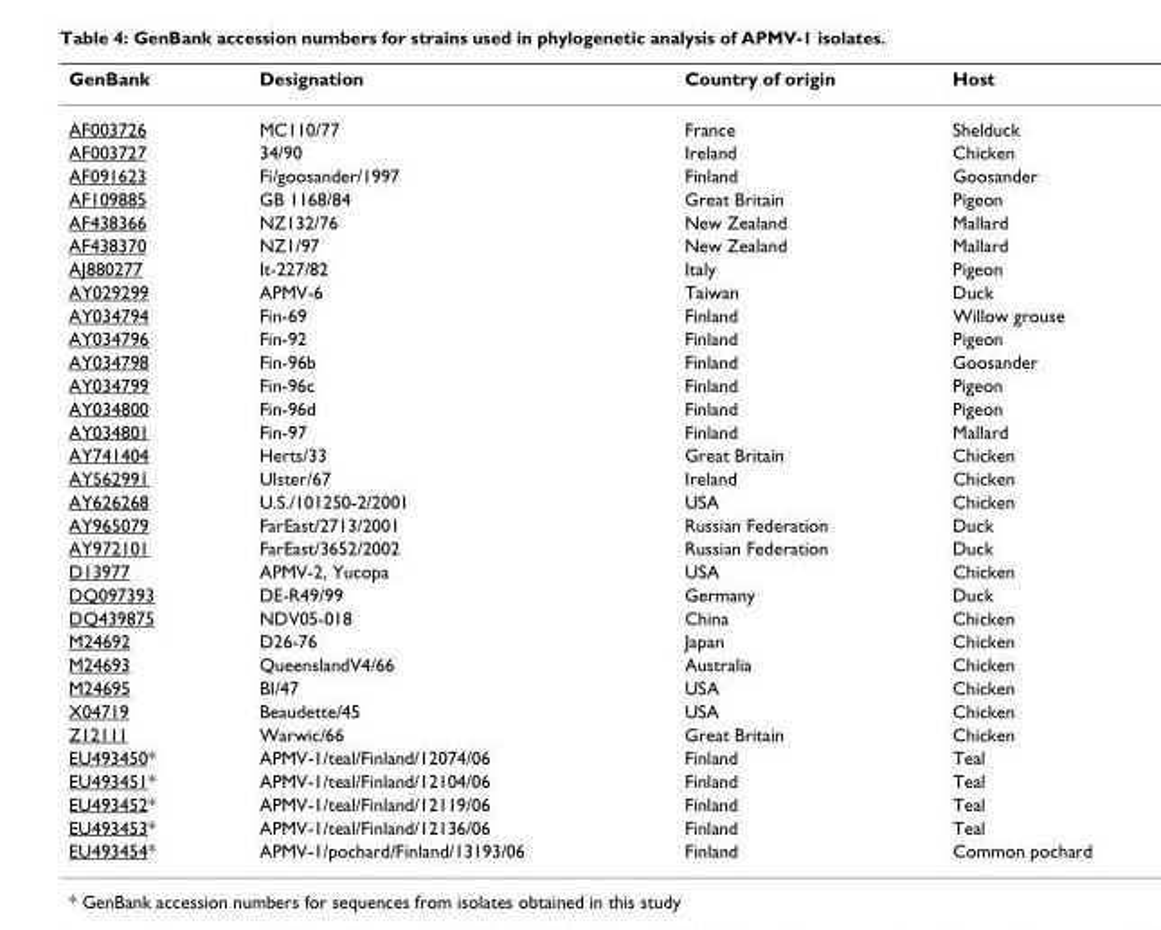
<table><thead><tr><td>GenBank</td><td>Designation</td><td>Country of origin</td><td>Host</td></tr></thead><tbody><tr><td>AF003726</td><td>MC110/77</td><td>France</td><td>Shelduck</td></tr><tr><td>AF003727</td><td>34/90</td><td>Ireland</td><td>Chicken</td></tr><tr><td>AF091623</td><td>Fi/goosander/1997</td><td>Finland</td><td>Goosander</td></tr><tr><td>AF109885</td><td>GB 1168/84</td><td>Great Britain</td><td>Pigeon</td></tr><tr><td>AF438366</td><td>NZ132/76</td><td>New Zealand</td><td>Mallard</td></tr><tr><td>AF438370</td><td>NZ1/97</td><td>New Zealand</td><td>Mallard</td></tr><tr><td>AJ880277</td><td>It-227/82</td><td>Italy</td><td>Pigeon</td></tr><tr><td>AY029299</td><td>APMV-6</td><td>Taiwan</td><td>Duck</td></tr><tr><td>AY034794</td><td>Fin-69</td><td>Finland</td><td>Willow grouse</td></tr><tr><td>AY034796</td><td>Fin-92</td><td>Finland</td><td>Pigeon</td></tr><tr><td>AY034798</td><td>Fin-96b</td><td>Finland</td><td>Goosander</td></tr><tr><td>AY034799</td><td>Fin-96c</td><td>Finland</td><td>Pigeon</td></tr><tr><td>AY034800</td><td>Fin-96d</td><td>Finland</td><td>Pigeon</td></tr><tr><td>AY034801</td><td>Fin-97</td><td>Finland</td><td>Mallard</td></tr><tr><td>AY741404</td><td>Herts/33</td><td>Great Britain</td><td>Chicken</td></tr><tr><td>AY562991</td><td>Ulster/67</td><td>Ireland</td><td>Chicken</td></tr><tr><td>AY626268</td><td>U.S./101250-2/2001</td><td>USA</td><td>Chicken</td></tr><tr><td>AY965079</td><td>FarEast/2713/2001</td><td>Russian Federation</td><td>Duck</td></tr><tr><td>AY972101</td><td>FarEast/3652/2002</td><td>Russian Federation</td><td>Duck</td></tr><tr><td>D13977</td><td>APMV-2, Yucopa</td><td>USA</td><td>Chicken</td></tr><tr><td>DQ097393</td><td>DE-R49/99</td><td>Germany</td><td>Duck</td></tr><tr><td>DQ439875</td><td>NDV05-018</td><td>China</td><td>Chicken</td></tr><tr><td>M24692</td><td>D26-76</td><td>Japan</td><td>Chicken</td></tr><tr><td>M24693</td><td>QueenslandV4/66</td><td>Australia</td><td>Chicken</td></tr><tr><td>M24695</td><td>BI/47</td><td>USA</td><td>Chicken</td></tr><tr><td>X04719</td><td>Beaudette/45</td><td>USA</td><td>Chicken</td></tr><tr><td>Z12111</td><td>Warwic/66</td><td>Great Britain</td><td>Chicken</td></tr><tr><td>EU493450*</td><td>APMV-1/teal/Finland/12074/06</td><td>Finland</td><td>Teal</td></tr><tr><td>EU493451*</td><td>APMV-1/teal/Finland/12104/06</td><td>Finland</td><td>Teal</td></tr><tr><td>EU493452*</td><td>APMV-1/teal/Finland/12119/06</td><td>Finland</td><td>Teal</td></tr><tr><td>EU493453*</td><td>APMV-1/teal/Finland/12136/06</td><td>Finland</td><td>Teal</td></tr><tr><td>EU493454*</td><td>APMV-1/pochard/Finland/13193/06</td><td>Finland</td><td>Common pochard</td></tr></tbody></table>